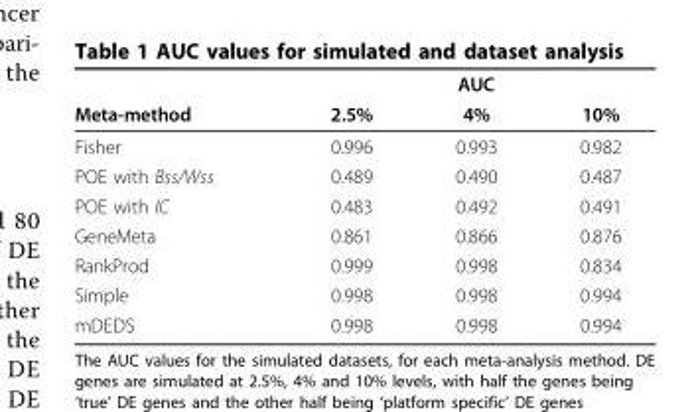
<table><thead><tr><td rowspan="2">Meta-method</td><td colspan="3">AUC</td></tr><tr><td>2.5%</td><td>4%</td><td>10%</td></tr></thead><tbody><tr><td>Fisher</td><td>0.996</td><td>0.993</td><td>0.982</td></tr><tr><td>POE with Bss/Wss</td><td>0.489</td><td>0.490</td><td>0.487</td></tr><tr><td>POE with IC</td><td>0.483</td><td>0.492</td><td>0.491</td></tr><tr><td>GeneMeta</td><td>0.861</td><td>0.866</td><td>0.876</td></tr><tr><td>RankProd</td><td>0.999</td><td>0.998</td><td>0.834</td></tr><tr><td>Simple</td><td>0.998</td><td>0.998</td><td>0.994</td></tr><tr><td>mDEDS</td><td>0.998</td><td>0.998</td><td>0.994</td></tr></tbody></table>